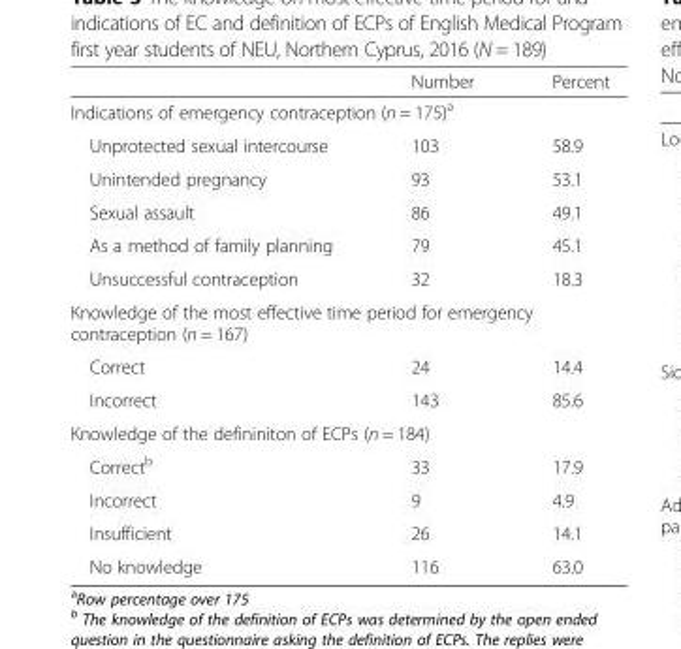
<table><thead><tr><td></td><td>Number</td><td>Percent</td></tr></thead><tbody><tr><td colspan="3">Indications of emergency contraception (n = 175)<sup>a</sup></td></tr><tr><td>Unprotected sexual intercourse</td><td>103</td><td>58.9</td></tr><tr><td>Unintended pregnancy</td><td>93</td><td>53.1</td></tr><tr><td>Sexual assault</td><td>86</td><td>49.1</td></tr><tr><td>As a method of family planning</td><td>79</td><td>45.1</td></tr><tr><td>Unsuccessful contraception</td><td>32</td><td>18.3</td></tr><tr><td colspan="3">Knowledge of the most effective time period for emergency contraception (n = 167)</td></tr><tr><td>Correct</td><td>24</td><td>14.4</td></tr><tr><td>Incorrect</td><td>143</td><td>85.6</td></tr><tr><td colspan="3">Knowledge of the defininiton of ECPs (n = 184)</td></tr><tr><td>Correct<sup>b</sup></td><td>33</td><td>17.9</td></tr><tr><td>Incorrect</td><td>9</td><td>4.9</td></tr><tr><td>Insufficient</td><td>26</td><td>14.1</td></tr><tr><td>No knowledge</td><td>116</td><td>63.0</td></tr></tbody></table>